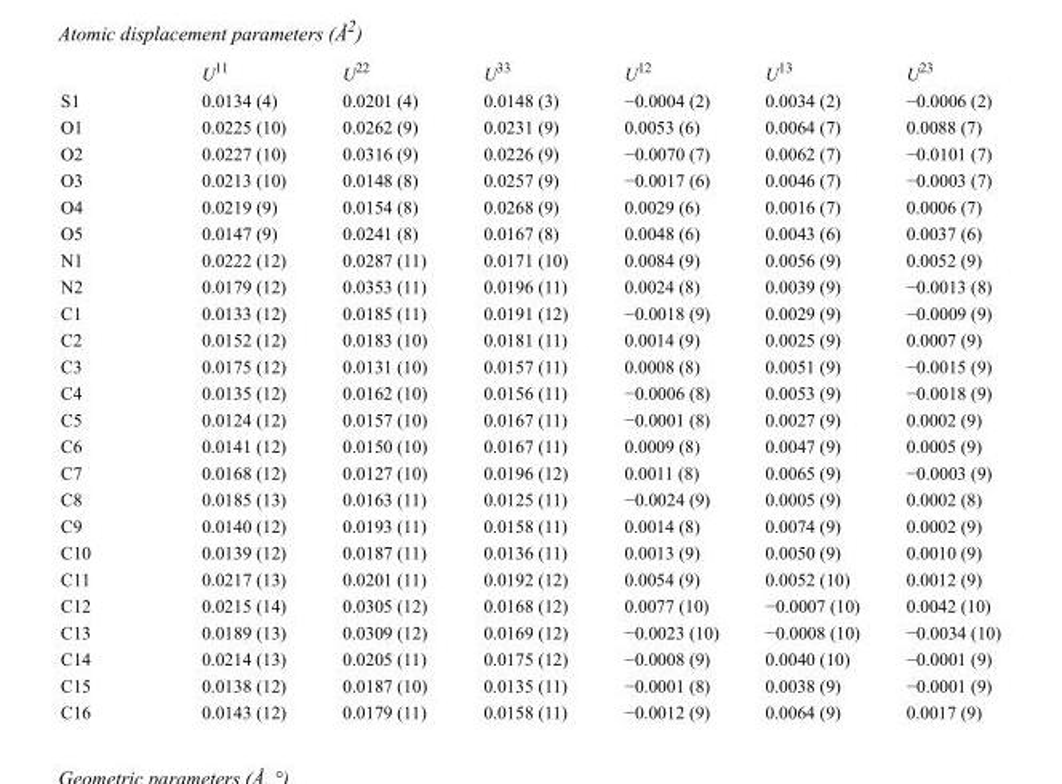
<table><thead><tr><td></td><td>U<sup>11</sup></td><td>U<sup>22</sup></td><td>U<sup>33</sup></td><td>U<sup>12</sup></td><td>U<sup>13</sup></td><td>U<sup>23</sup></td></tr></thead><tbody><tr><td>S1</td><td>0.0134 (4)</td><td>0.0201 (4)</td><td>0.0148 (3)</td><td>−0.0004 (2)</td><td>0.0034 (2)</td><td>−0.0006 (2)</td></tr><tr><td>O1</td><td>0.0225 (10)</td><td>0.0262 (9)</td><td>0.0231 (9)</td><td>0.0053 (6)</td><td>0.0064 (7)</td><td>0.0088 (7)</td></tr><tr><td>O2</td><td>0.0227 (10)</td><td>0.0316 (9)</td><td>0.0226 (9)</td><td>−0.0070 (7)</td><td>0.0062 (7)</td><td>−0.0101 (7)</td></tr><tr><td>O3</td><td>0.0213 (10)</td><td>0.0148 (8)</td><td>0.0257 (9)</td><td>−0.0017 (6)</td><td>0.0046 (7)</td><td>−0.0003 (7)</td></tr><tr><td>O4</td><td>0.0219 (9)</td><td>0.0154 (8)</td><td>0.0268 (9)</td><td>0.0029 (6)</td><td>0.0016 (7)</td><td>0.0006 (7)</td></tr><tr><td>O5</td><td>0.0147 (9)</td><td>0.0241 (8)</td><td>0.0167 (8)</td><td>0.0048 (6)</td><td>0.0043 (6)</td><td>0.0037 (6)</td></tr><tr><td>N1</td><td>0.0222 (12)</td><td>0.0287 (11)</td><td>0.0171 (10)</td><td>0.0084 (9)</td><td>0.0056 (9)</td><td>0.0052 (9)</td></tr><tr><td>N2</td><td>0.0179 (12)</td><td>0.0353 (11)</td><td>0.0196 (11)</td><td>0.0024 (8)</td><td>0.0039 (9)</td><td>−0.0013 (8)</td></tr><tr><td>C1</td><td>0.0133 (12)</td><td>0.0185 (11)</td><td>0.0191 (12)</td><td>−0.0018 (9)</td><td>0.0029 (9)</td><td>−0.0009 (9)</td></tr><tr><td>C2</td><td>0.0152 (12)</td><td>0.0183 (10)</td><td>0.0181 (11)</td><td>0.0014 (9)</td><td>0.0025 (9)</td><td>0.0007 (9)</td></tr><tr><td>C3</td><td>0.0175 (12)</td><td>0.0131 (10)</td><td>0.0157 (11)</td><td>0.0008 (8)</td><td>0.0051 (9)</td><td>−0.0015 (9)</td></tr><tr><td>C4</td><td>0.0135 (12)</td><td>0.0162 (10)</td><td>0.0156 (11)</td><td>−0.0006 (8)</td><td>0.0053 (9)</td><td>−0.0018 (9)</td></tr><tr><td>C5</td><td>0.0124 (12)</td><td>0.0157 (10)</td><td>0.0167 (11)</td><td>−0.0001 (8)</td><td>0.0027 (9)</td><td>0.0002 (9)</td></tr><tr><td>C6</td><td>0.0141 (12)</td><td>0.0150 (10)</td><td>0.0167 (11)</td><td>0.0009 (8)</td><td>0.0047 (9)</td><td>0.0005 (9)</td></tr><tr><td>C7</td><td>0.0168 (12)</td><td>0.0127 (10)</td><td>0.0196 (12)</td><td>0.0011 (8)</td><td>0.0065 (9)</td><td>−0.0003 (9)</td></tr><tr><td>C8</td><td>0.0185 (13)</td><td>0.0163 (11)</td><td>0.0125 (11)</td><td>−0.0024 (9)</td><td>0.0005 (9)</td><td>0.0002 (8)</td></tr><tr><td>C9</td><td>0.0140 (12)</td><td>0.0193 (11)</td><td>0.0158 (11)</td><td>0.0014 (8)</td><td>0.0074 (9)</td><td>0.0002 (9)</td></tr><tr><td>C10</td><td>0.0139 (12)</td><td>0.0187 (11)</td><td>0.0136 (11)</td><td>0.0013 (9)</td><td>0.0050 (9)</td><td>0.0010 (9)</td></tr><tr><td>C11</td><td>0.0217 (13)</td><td>0.0201 (11)</td><td>0.0192 (12)</td><td>0.0054 (9)</td><td>0.0052 (10)</td><td>0.0012 (9)</td></tr><tr><td>C12</td><td>0.0215 (14)</td><td>0.0305 (12)</td><td>0.0168 (12)</td><td>0.0077 (10)</td><td>−0.0007 (10)</td><td>0.0042 (10)</td></tr><tr><td>C13</td><td>0.0189 (13)</td><td>0.0309 (12)</td><td>0.0169 (12)</td><td>−0.0023 (10)</td><td>−0.0008 (10)</td><td>−0.0034 (10)</td></tr><tr><td>C14</td><td>0.0214 (13)</td><td>0.0205 (11)</td><td>0.0175 (12)</td><td>−0.0008 (9)</td><td>0.0040 (10)</td><td>−0.0001 (9)</td></tr><tr><td>C15</td><td>0.0138 (12)</td><td>0.0187 (10)</td><td>0.0135 (11)</td><td>−0.0001 (8)</td><td>0.0038 (9)</td><td>−0.0001 (9)</td></tr><tr><td>C16</td><td>0.0143 (12)</td><td>0.0179 (11)</td><td>0.0158 (11)</td><td>−0.0012 (9)</td><td>0.0064 (9)</td><td>0.0017 (9)</td></tr></tbody></table>